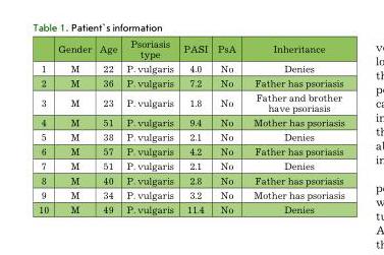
<table><thead><tr><td></td><td>Gender</td><td>Age</td><td>Psoriasis type</td><td>PASI</td><td>PsA</td><td>Inheritance</td></tr></thead><tbody><tr><td>1</td><td>M</td><td>22</td><td>P. vulgaris</td><td>4.0</td><td>no</td><td>Denies</td></tr><tr><td>2</td><td>M</td><td>36</td><td>P. vulgaris</td><td>7.2</td><td>no</td><td>Father has psoriasis</td></tr><tr><td>3</td><td>M</td><td>23</td><td>P. vulgaris</td><td>1.8</td><td>no</td><td>Father and brother have psoriasis</td></tr><tr><td>4</td><td>M</td><td>51</td><td>P. vulgaris</td><td>9.4</td><td>no</td><td>Mother has psoriasis</td></tr><tr><td>5</td><td>M</td><td>38</td><td>P. vulgaris</td><td>2.1</td><td>no</td><td>Denies</td></tr><tr><td>6</td><td>M</td><td>57</td><td>P. vulgaris</td><td>4.2</td><td>no</td><td>Father has psoriasis</td></tr><tr><td>7</td><td>M</td><td>51</td><td>P. vulgaris</td><td>2.1</td><td>no</td><td>Denies</td></tr><tr><td>8</td><td>M</td><td>40</td><td>P. vulgaris</td><td>2.8</td><td>no</td><td>Father has psoriasis</td></tr><tr><td>9</td><td>M</td><td>34</td><td>P. vulgaris</td><td>3.2</td><td>no</td><td>Mother has psoriasis</td></tr><tr><td>10</td><td>M</td><td>49</td><td>P. vulgaris</td><td>11.4</td><td>no</td><td>Denies</td></tr></tbody></table>